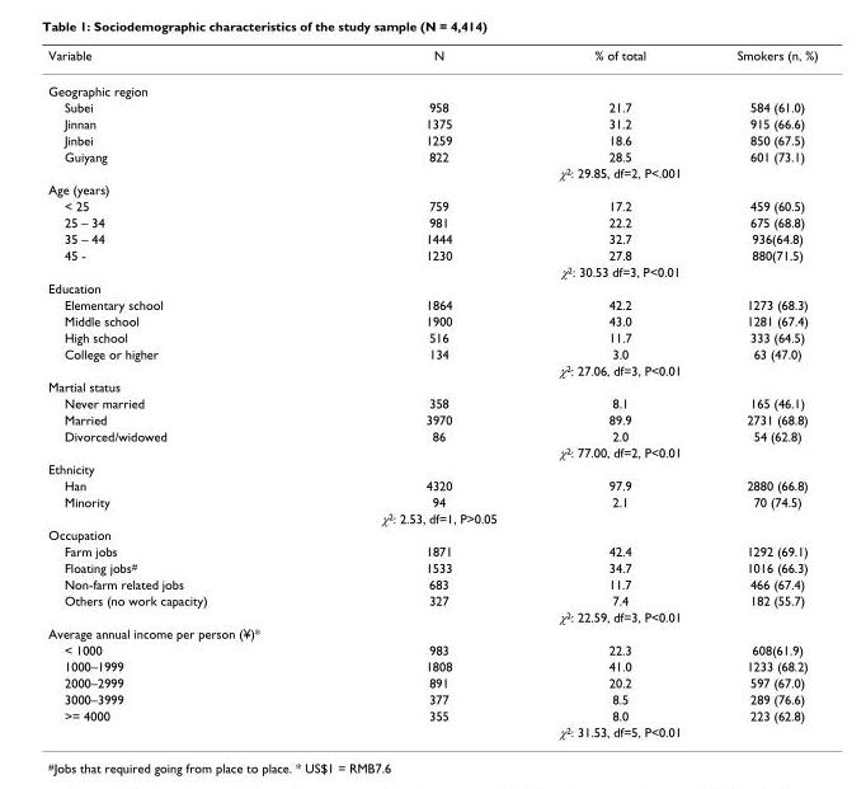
<table><thead><tr><td>Variable</td><td>N</td><td>% of total</td><td>Smokers (n, %)</td></tr></thead><tbody><tr><td colspan="4">Geographic region</td></tr><tr><td>Subei</td><td>958</td><td>21.7</td><td>584 (61.0)</td></tr><tr><td>Jinnan</td><td>1375</td><td>31.2</td><td>915 (66.6)</td></tr><tr><td>Jinbei</td><td>1259</td><td>18.6</td><td>850 (67.5)</td></tr><tr><td rowspan="2">Guiyang</td><td>822</td><td>28.5</td><td>601 (73.1)</td></tr><tr><td></td><td>χ<sup>2</sup>: 29.85, df=2, P&lt;.001</td><td></td></tr><tr><td colspan="4">Age (years)</td></tr><tr><td>&lt; 25</td><td>759</td><td>17.2</td><td>459 (60.5)</td></tr><tr><td>25 – 34</td><td>981</td><td>22.2</td><td>675 (68.8)</td></tr><tr><td>35 – 44</td><td>1444</td><td>32.7</td><td>936(64.8)</td></tr><tr><td rowspan="2">45 -</td><td>1230</td><td>27.8</td><td>880(71.5)</td></tr><tr><td></td><td>χ<sup>2</sup>: 30.53 df=3, P&lt;0.01</td><td></td></tr><tr><td colspan="4">Education</td></tr><tr><td>Elementary school</td><td>1864</td><td>42.2</td><td>1273 (68.3)</td></tr><tr><td>Middle school</td><td>1900</td><td>43.0</td><td>1281 (67.4)</td></tr><tr><td>High school</td><td>516</td><td>11.7</td><td>333 (64.5)</td></tr><tr><td rowspan="2">College or higher</td><td>134</td><td>3.0</td><td>63 (47.0)</td></tr><tr><td></td><td>χ<sup>2</sup>: 27.06, df=3, P&lt;0.01</td><td></td></tr><tr><td colspan="4">Martial status</td></tr><tr><td>Never married</td><td>358</td><td>8.1</td><td>165 (46.1)</td></tr><tr><td>Married</td><td>3970</td><td>89.9</td><td>2731 (68.8)</td></tr><tr><td rowspan="2">Divorced/widowed</td><td>86</td><td>2.0</td><td>54 (62.8)</td></tr><tr><td></td><td>χ<sup>2</sup>: 77.00, df=2, P&lt;0.01</td><td></td></tr><tr><td colspan="4">Ethnicity</td></tr><tr><td>Han</td><td>4320</td><td>97.9</td><td>2880 (66.8)</td></tr><tr><td rowspan="2">Minority</td><td>94</td><td>2.1</td><td>70 (74.5)</td></tr><tr><td>χ<sup>2</sup>: 2.53, df=1, P&gt;0.05</td><td></td><td></td></tr><tr><td colspan="4">Occupation</td></tr><tr><td>Farm jobs</td><td>1871</td><td>42.4</td><td>1292 (69.1)</td></tr><tr><td>Floating jobs<sup>#</sup></td><td>1533</td><td>34.7</td><td>1016 (66.3)</td></tr><tr><td>Non-farm related jobs</td><td>683</td><td>11.7</td><td>466 (67.4)</td></tr><tr><td rowspan="2">Others (no work capacity)</td><td>327</td><td>7.4</td><td>182 (55.7)</td></tr><tr><td></td><td>χ<sup>2</sup>: 22.59, df=3, P&lt;0.01</td><td></td></tr><tr><td colspan="4">Average annual income per person (¥)*</td></tr><tr><td>&lt; 1000</td><td>983</td><td>22.3</td><td>608(61.9)</td></tr><tr><td>1000–1999</td><td>1808</td><td>41.0</td><td>1233 (68.2)</td></tr><tr><td>2000–2999</td><td>891</td><td>20.2</td><td>597 (67.0)</td></tr><tr><td>3000–3999</td><td>377</td><td>8.5</td><td>289 (76.6)</td></tr><tr><td rowspan="2">&gt;= 4000</td><td>355</td><td>8.0</td><td>223 (62.8)</td></tr><tr><td></td><td>χ<sup>2</sup>: 31.53, df=5, P&lt;0.01</td><td></td></tr></tbody></table>